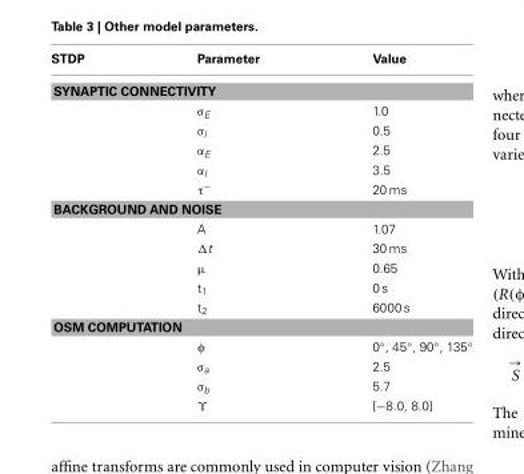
<table><thead><tr><td>STDP</td><td>Parameter</td><td>Value</td></tr></thead><tbody><tr><td colspan="3">SYNAPTIC CONNECTIVITY</td></tr><tr><td></td><td>σ<sub>E</sub></td><td>1.0</td></tr><tr><td></td><td>σ<sub>l</sub></td><td>0.5</td></tr><tr><td></td><td>α<sub>E</sub></td><td>2.5</td></tr><tr><td></td><td>α<sub>l</sub></td><td>3.5</td></tr><tr><td></td><td>τ<sup>−</sup></td><td>20 ms</td></tr><tr><td colspan="3">BACKGROUND AND NOISE</td></tr><tr><td></td><td>A</td><td>1.07</td></tr><tr><td></td><td>Δt</td><td>30 ms</td></tr><tr><td></td><td>μ</td><td>0.65</td></tr><tr><td></td><td>t<sub>1</sub></td><td>0 s</td></tr><tr><td></td><td>t<sub>2</sub></td><td>6000 s</td></tr><tr><td colspan="3">OSM COMPUTATION</td></tr><tr><td></td><td>φ</td><td>0◦, 45◦, 90◦, 135◦</td></tr><tr><td></td><td>σ<sub>a</sub></td><td>2.5</td></tr><tr><td></td><td>σ<sub>b</sub></td><td>5.7</td></tr><tr><td></td><td>ϒ</td><td>[−8.0, 8.0]</td></tr></tbody></table>